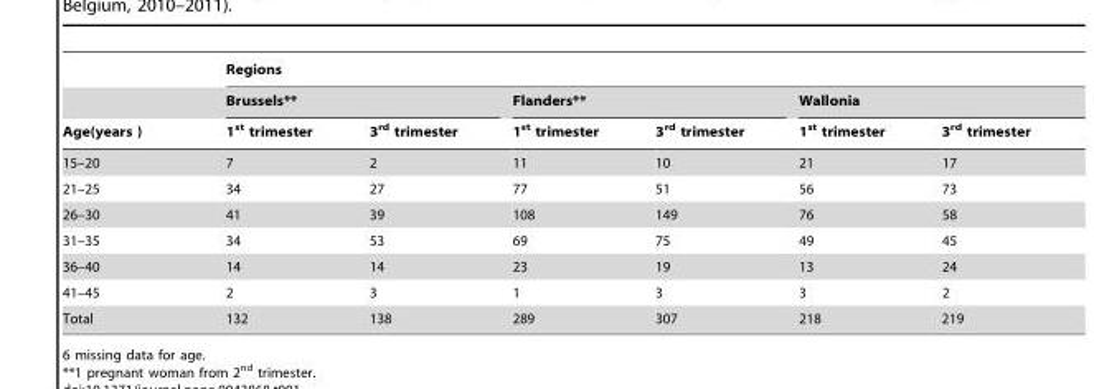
<table><thead><tr><td rowspan="3">Age(years )</td><td colspan="6">Regions</td></tr><tr><td colspan="2">Brussels**</td><td colspan="2">Flanders**</td><td colspan="2">Wallonia</td></tr><tr><td>1<sup>st</sup> trimester</td><td>3<sup>rd</sup> trimester</td><td>1<sup>st</sup> trimester</td><td>3<sup>rd</sup> trimester</td><td>1<sup>st</sup> trimester</td><td>3<sup>rd</sup> trimester</td></tr></thead><tbody><tr><td>15–20</td><td>7</td><td>2</td><td>11</td><td>10</td><td>21</td><td>17</td></tr><tr><td>21–25</td><td>34</td><td>27</td><td>77</td><td>51</td><td>56</td><td>73</td></tr><tr><td>26–30</td><td>41</td><td>39</td><td>108</td><td>149</td><td>76</td><td>58</td></tr><tr><td>31–35</td><td>34</td><td>53</td><td>69</td><td>75</td><td>49</td><td>45</td></tr><tr><td>36–40</td><td>14</td><td>14</td><td>23</td><td>19</td><td>13</td><td>24</td></tr><tr><td>41–45</td><td>2</td><td>3</td><td>1</td><td>3</td><td>3</td><td>2</td></tr><tr><td>Total</td><td>132</td><td>138</td><td>289</td><td>307</td><td>218</td><td>219</td></tr></tbody></table>